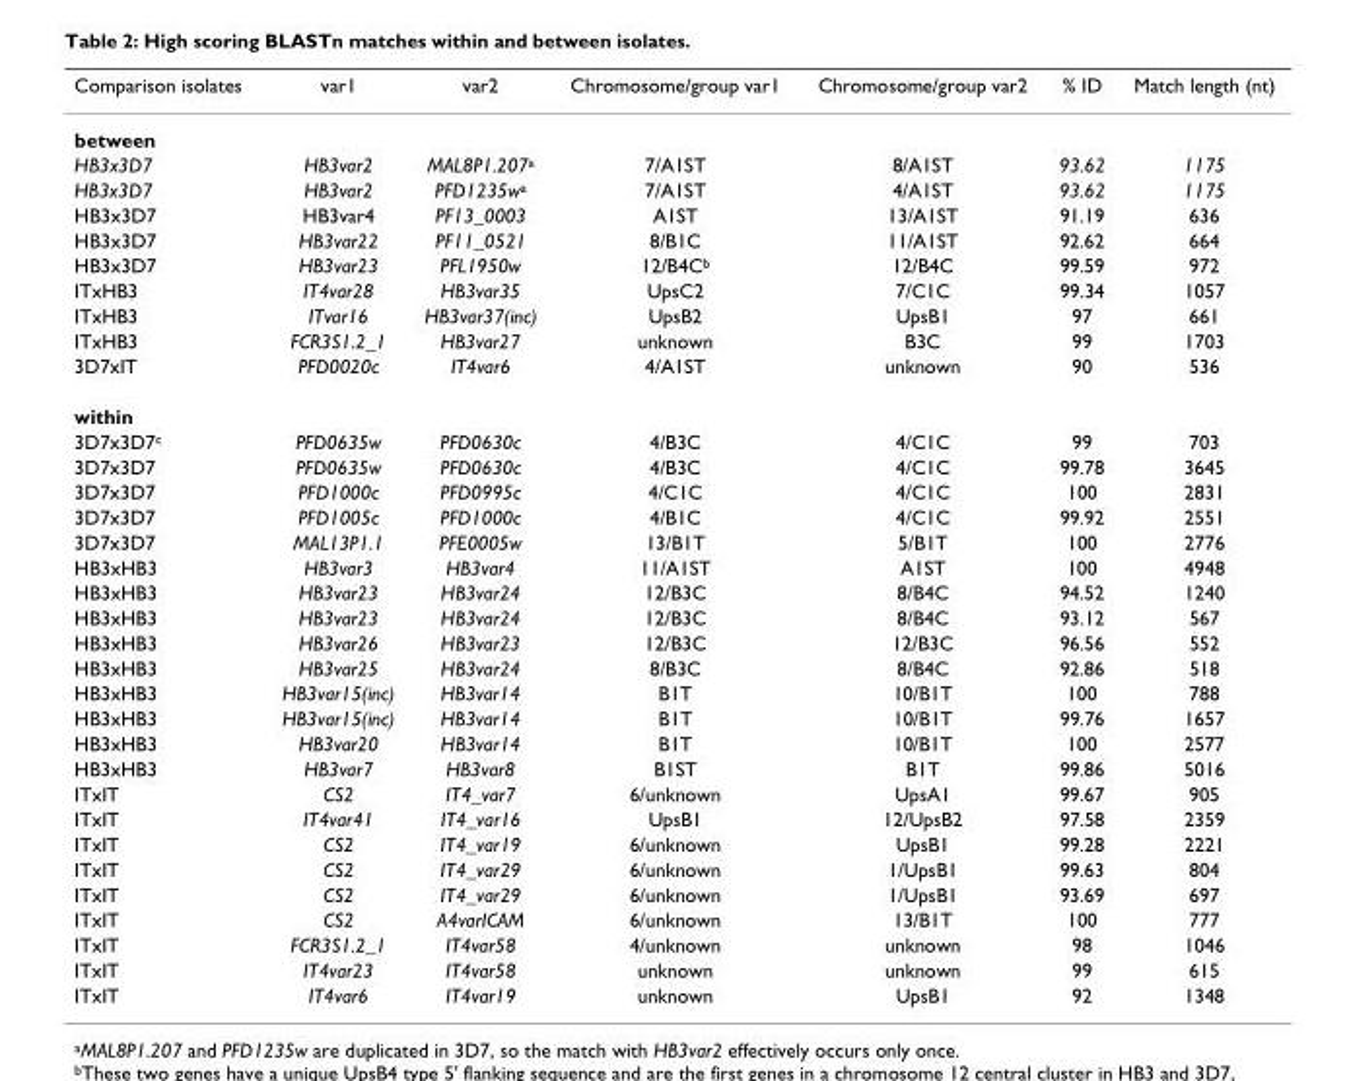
<table><thead><tr><td>Comparison isolates</td><td>var1</td><td>var2</td><td>Chromosome/group var1</td><td>Chromosome/group var2</td><td>% ID</td><td>Match length (nt)</td></tr></thead><tbody><tr><td colspan="7">between</td></tr><tr><td>HB3x3D7</td><td>HB3var2</td><td>MAL8P1.207<sup>a</sup></td><td>7/A1ST</td><td>8/A1ST</td><td>93.62</td><td>1175</td></tr><tr><td>HB3x3D7</td><td>HB3var2</td><td>PFD1235w<sup>a</sup></td><td>7/A1ST</td><td>4/A1ST</td><td>93.62</td><td>1175</td></tr><tr><td>HB3x3D7</td><td>HB3var4</td><td>PF13_0003</td><td>A1ST</td><td>13/A1ST</td><td>91.19</td><td>636</td></tr><tr><td>HB3x3D7</td><td>HB3var22</td><td>PF11_0521</td><td>8/B1C</td><td>11/A1ST</td><td>92.62</td><td>664</td></tr><tr><td>HB3x3D7</td><td>HB3var23</td><td>PFL1950w</td><td>12/B4C<sup>b</sup></td><td>12/B4C</td><td>99.59</td><td>972</td></tr><tr><td>ITxHB3</td><td>IT4var28</td><td>HB3var35</td><td>UpsC2</td><td>7/C1C</td><td>99.34</td><td>1057</td></tr><tr><td>ITxHB3</td><td>ITvar16</td><td>HB3var37(inc)</td><td>UpsB2</td><td>UpsB1</td><td>97</td><td>661</td></tr><tr><td>ITxHB3</td><td>FCR3S1.2_1</td><td>HB3var27</td><td>unknown</td><td>B3C</td><td>99</td><td>1703</td></tr><tr><td>3D7xIT</td><td>PFD0020c</td><td>IT4var6</td><td>4/A1ST</td><td>unknown</td><td>90</td><td>536</td></tr><tr><td colspan="7">within</td></tr><tr><td>3D7x3D7<sup>c</sup></td><td>PFD0635w</td><td>PFD0630c</td><td>4/B3C</td><td>4/C1C</td><td>99</td><td>703</td></tr><tr><td>3D7x3D7</td><td>PFD0635w</td><td>PFD0630c</td><td>4/B3C</td><td>4/C1C</td><td>99.78</td><td>3645</td></tr><tr><td>3D7x3D7</td><td>PFD1000c</td><td>PFD0995c</td><td>4/C1C</td><td>4/C1C</td><td>100</td><td>2831</td></tr><tr><td>3D7x3D7</td><td>PFD1005c</td><td>PFD1000c</td><td>4/B1C</td><td>4/C1C</td><td>99.92</td><td>2551</td></tr><tr><td>3D7x3D7</td><td>MAL13P1.1</td><td>PFE0005w</td><td>13/B1T</td><td>5/B1T</td><td>100</td><td>2776</td></tr><tr><td>HB3xHB3</td><td>HB3var3</td><td>HB3var4</td><td>11/A1ST</td><td>A1ST</td><td>100</td><td>4948</td></tr><tr><td>HB3xHB3</td><td>HB3var23</td><td>HB3var24</td><td>12/B3C</td><td>8/B4C</td><td>94.52</td><td>1240</td></tr><tr><td>HB3xHB3</td><td>HB3var23</td><td>HB3var24</td><td>12/B3C</td><td>8/B4C</td><td>93.12</td><td>567</td></tr><tr><td>HB3xHB3</td><td>HB3var26</td><td>HB3var23</td><td>12/B3C</td><td>12/B3C</td><td>96.56</td><td>552</td></tr><tr><td>HB3xHB3</td><td>HB3var25</td><td>HB3var24</td><td>8/B3C</td><td>8/B4C</td><td>92.86</td><td>518</td></tr><tr><td>HB3xHB3</td><td>HB3var15(inc)</td><td>HB3var14</td><td>B1T</td><td>10/B1T</td><td>100</td><td>788</td></tr><tr><td>HB3xHB3</td><td>HB3var15(inc)</td><td>HB3var14</td><td>B1T</td><td>10/B1T</td><td>99.76</td><td>1657</td></tr><tr><td>HB3xHB3</td><td>HB3var20</td><td>HB3var14</td><td>B1T</td><td>10/B1T</td><td>100</td><td>2577</td></tr><tr><td>HB3xHB3</td><td>HB3var7</td><td>HB3var8</td><td>B1ST</td><td>B1T</td><td>99.86</td><td>5016</td></tr><tr><td>ITxIT</td><td>CS2</td><td>IT4_var7</td><td>6/unknown</td><td>UpsA1</td><td>99.67</td><td>905</td></tr><tr><td>ITxIT</td><td>IT4var41</td><td>IT4_var16</td><td>UpsB1</td><td>12/UpsB2</td><td>97.58</td><td>2359</td></tr><tr><td>ITxIT</td><td>CS2</td><td>IT4_var19</td><td>6/unknown</td><td>UpsB1</td><td>99.28</td><td>2221</td></tr><tr><td>ITxIT</td><td>CS2</td><td>IT4_var29</td><td>6/unknown</td><td>1/UpsB1</td><td>99.63</td><td>804</td></tr><tr><td>ITxIT</td><td>CS2</td><td>IT4_var29</td><td>6/unknown</td><td>1/UpsB1</td><td>93.69</td><td>697</td></tr><tr><td>ITxIT</td><td>CS2</td><td>A4varICAM</td><td>6/unknown</td><td>13/B1T</td><td>100</td><td>777</td></tr><tr><td>ITxIT</td><td>FCR3S1.2_1</td><td>IT4var58</td><td>4/unknown</td><td>unknown</td><td>98</td><td>1046</td></tr><tr><td>ITxIT</td><td>IT4var23</td><td>IT4var58</td><td>unknown</td><td>unknown</td><td>99</td><td>615</td></tr><tr><td>ITxIT</td><td>IT4var6</td><td>IT4var19</td><td>unknown</td><td>UpsB1</td><td>92</td><td>1348</td></tr></tbody></table>